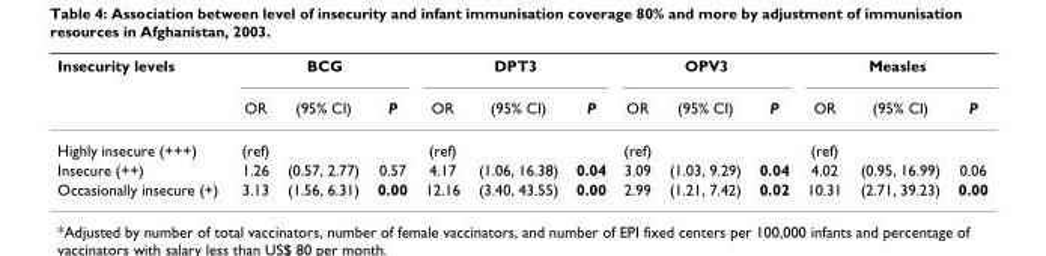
<table><thead><tr><td rowspan="2">Insecurity levels</td><td colspan="3">BCG</td><td colspan="3">DPT3</td><td colspan="3">OPV3</td><td colspan="3">Measles</td></tr><tr><td>OR</td><td>(95% CI)</td><td>P</td><td>OR</td><td>(95% CI)</td><td>P</td><td>OR</td><td>(95% CI)</td><td>P</td><td>OR</td><td>(95% CI)</td><td>P</td></tr></thead><tbody><tr><td>Highly insecure (+++)</td><td>(ref)</td><td></td><td></td><td>(ref)</td><td></td><td></td><td>(ref)</td><td></td><td></td><td>(ref)</td><td></td><td></td></tr><tr><td>Insecure (++)</td><td>1.26</td><td>(0.57, 2.77)</td><td>0.57</td><td>4.17</td><td>(1.06, 16.38)</td><td>0.04</td><td>3.09</td><td>(1.03, 9.29)</td><td>0.04</td><td>4.02</td><td>(0.95, 16.99)</td><td>0.06</td></tr><tr><td>Occasionally insecure (+)</td><td>3.13</td><td>(1.56, 6.31)</td><td>0.00</td><td>12.16</td><td>(3.40, 43.55)</td><td>0.00</td><td>2.99</td><td>(1.21, 7.42)</td><td>0.02</td><td>10.31</td><td>(2.71, 39.23)</td><td>0.00</td></tr></tbody></table>